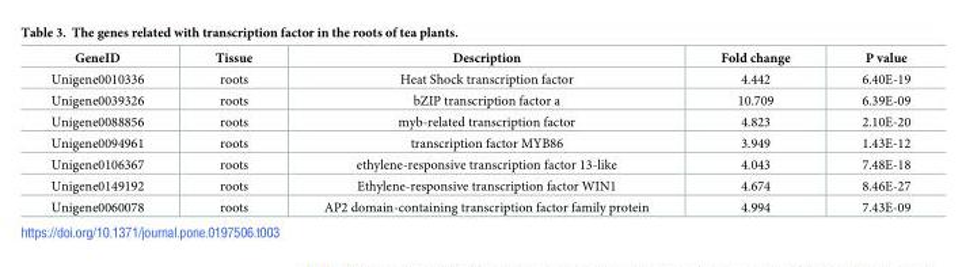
<table><thead><tr><td>GeneID</td><td>Tissue</td><td>Description</td><td>Fold change</td><td>P value</td></tr></thead><tbody><tr><td>Unigene0010336</td><td>roots</td><td>Heat Shock transcription factor</td><td>4.442</td><td>6.40E-19</td></tr><tr><td>Unigene0039326</td><td>roots</td><td>bZIP transcription factor a</td><td>10.709</td><td>6.39E-09</td></tr><tr><td>Unigene0088856</td><td>roots</td><td>myb-related transcription factor</td><td>4.823</td><td>2.10E-20</td></tr><tr><td>Unigene0094961</td><td>roots</td><td>transcription factor MYB86</td><td>3.949</td><td>1.43E-12</td></tr><tr><td>Unigene0106367</td><td>roots</td><td>ethylene-responsive transcription factor 13-like</td><td>4.043</td><td>7.48E-18</td></tr><tr><td>Unigene0149192</td><td>roots</td><td>Ethylene-responsive transcription factor WIN1</td><td>4.674</td><td>8.46E-27</td></tr><tr><td>Unigene0060078</td><td>roots</td><td>AP2 domain-containing transcription factor family protein</td><td>4.994</td><td>7.43E-09</td></tr></tbody></table>